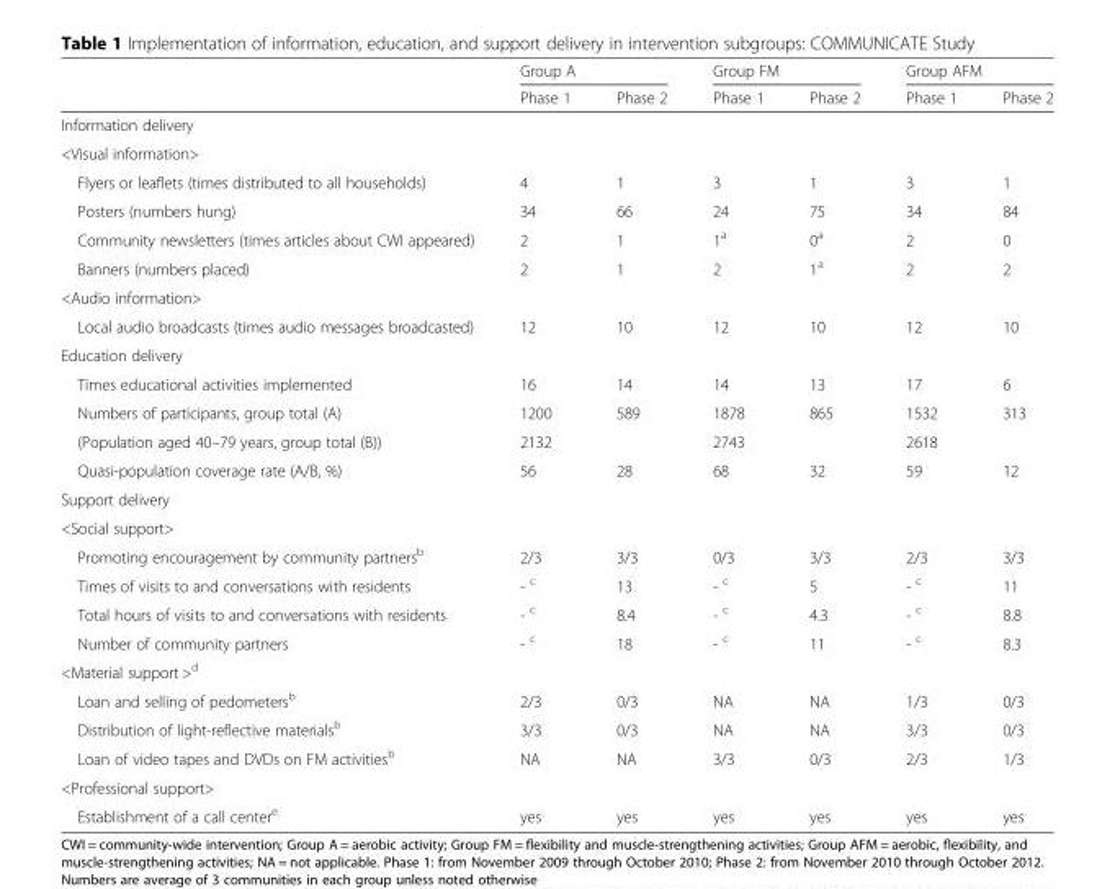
<table><thead><tr><td rowspan="2"></td><td colspan="2">Group A</td><td colspan="2">Group FM</td><td colspan="2">Group AFM</td></tr><tr><td>Phase 1</td><td>Phase 2</td><td>Phase 1</td><td>Phase 2</td><td>Phase 1</td><td>Phase 2</td></tr></thead><tbody><tr><td colspan="7">Information delivery</td></tr><tr><td colspan="7">&lt;Visual information&gt;</td></tr><tr><td>Flyers or leaflets (times distributed to all households)</td><td>4</td><td>1</td><td>3</td><td>1</td><td>3</td><td>1</td></tr><tr><td>Posters (numbers hung)</td><td>34</td><td>66</td><td>24</td><td>75</td><td>34</td><td>84</td></tr><tr><td>Community newsletters (times articles about CWI appeared)</td><td>2</td><td>1</td><td>1<sup>a</sup></td><td>0<sup>a</sup></td><td>2</td><td>0</td></tr><tr><td>Banners (numbers placed)</td><td>2</td><td>1</td><td>2</td><td>1<sup>a</sup></td><td>2</td><td>2</td></tr><tr><td colspan="7">&lt;Audio information&gt;</td></tr><tr><td>Local audio broadcasts (times audio messages broadcasted)</td><td>12</td><td>10</td><td>12</td><td>10</td><td>12</td><td>10</td></tr><tr><td colspan="7">Education delivery</td></tr><tr><td>Times educational activities implemented</td><td>16</td><td>14</td><td>14</td><td>13</td><td>17</td><td>6</td></tr><tr><td>Numbers of participants, group total (A)</td><td>1200</td><td>589</td><td>1878</td><td>865</td><td>1532</td><td>313</td></tr><tr><td>(Population aged 40–79 years, group total (B))</td><td colspan="2">2132</td><td colspan="2">2743</td><td colspan="2">2618</td></tr><tr><td>Quasi-population coverage rate (A/B, %)</td><td>56</td><td>28</td><td>68</td><td>32</td><td>59</td><td>12</td></tr><tr><td colspan="7">Support delivery</td></tr><tr><td colspan="7">&lt;Social support&gt;</td></tr><tr><td>Promoting encouragement by community partners<sup>b</sup></td><td>2/3</td><td>3/3</td><td>0/3</td><td>3/3</td><td>2/3</td><td>3/3</td></tr><tr><td>Times of visits to and conversations with residents</td><td>- <sup>c</sup></td><td>13</td><td>- <sup>c</sup></td><td>5</td><td>- <sup>c</sup></td><td>11</td></tr><tr><td>Total hours of visits to and conversations with residents</td><td>- <sup>c</sup></td><td>8.4</td><td>- <sup>c</sup></td><td>4.3</td><td>- <sup>c</sup></td><td>8.8</td></tr><tr><td>Number of community partners</td><td>- <sup>c</sup></td><td>18</td><td>- <sup>c</sup></td><td>11</td><td>- <sup>c</sup></td><td>8.3</td></tr><tr><td colspan="7">&lt;Material support &gt;<sup>d</sup></td></tr><tr><td>Loan and selling of pedometers<sup>b</sup></td><td>2/3</td><td>0/3</td><td>NA</td><td>NA</td><td>1/3</td><td>0/3</td></tr><tr><td>Distribution of light-reflective materials<sup>b</sup></td><td>3/3</td><td>0/3</td><td>NA</td><td>NA</td><td>3/3</td><td>0/3</td></tr><tr><td>Loan of video tapes and DVDs on FM activities<sup>b</sup></td><td>NA</td><td>NA</td><td>3/3</td><td>0/3</td><td>2/3</td><td>1/3</td></tr><tr><td colspan="7">&lt;Professional support&gt;</td></tr><tr><td>Establishment of a call center<sup>e</sup></td><td>yes</td><td>yes</td><td>yes</td><td>yes</td><td>yes</td><td>yes</td></tr></tbody></table>